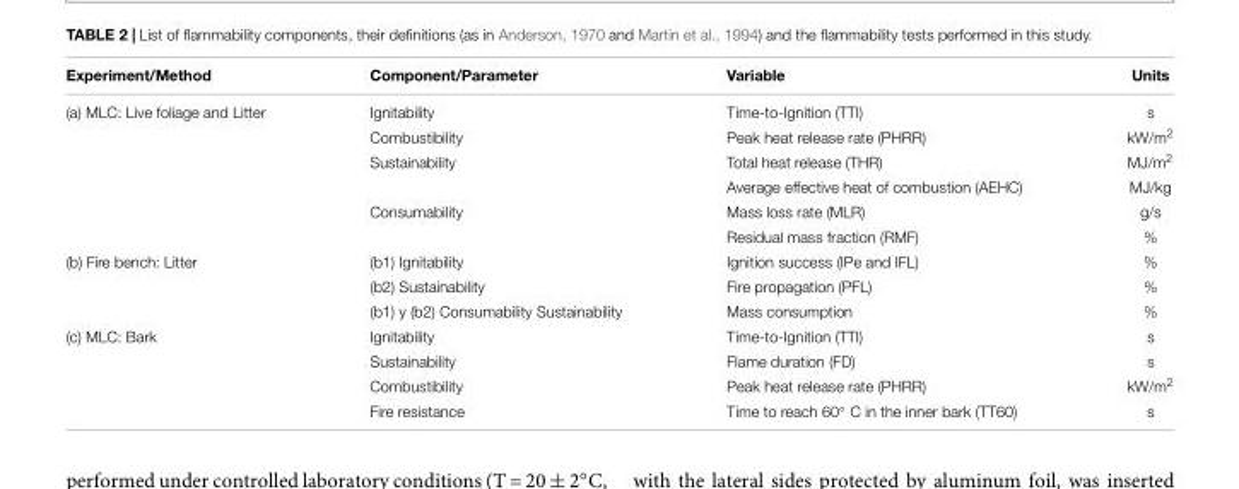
<table><thead><tr><td>Experiment/Method</td><td>Component/Parameter</td><td>Variable</td><td>Units</td></tr></thead><tbody><tr><td rowspan="6">(a) MLC: Live foliage and Litter</td><td>Ignitability</td><td>Time-to-Ignition (TTI)</td><td>s</td></tr><tr><td>Combustibility</td><td>Peak heat release rate (PHRR)</td><td>kW/m<sup>2</sup></td></tr><tr><td>Sustainability</td><td>Total heat release (THR)</td><td>MJ/m<sup>2</sup></td></tr><tr><td></td><td>Average effective heat of combustion (AEHC)</td><td>MJ/kg</td></tr><tr><td>Consumability</td><td>Mass loss rate (MLR)</td><td>g/s</td></tr><tr><td></td><td>Residual mass fraction (RMF)</td><td>%</td></tr><tr><td rowspan="3">(b) Fire bench: Litter</td><td>(b1) Ignitability</td><td>Ignition success (IPe and IFL)</td><td>%</td></tr><tr><td>(b2) Sustainability</td><td>Fire propagation (PFL)</td><td>%</td></tr><tr><td>(b1) y (b2) Consumability Sustainability</td><td>Mass consumption</td><td>%</td></tr><tr><td rowspan="4">(c) MLC: Bark</td><td>Ignitability</td><td>Time-to-Ignition (TTI)</td><td>s</td></tr><tr><td>Sustainability</td><td>Flame duration (FD)</td><td>s</td></tr><tr><td>Combustibility</td><td>Peak heat release rate (PHRR)</td><td>kW/m<sup>2</sup></td></tr><tr><td>Fire resistance</td><td>Time to reach 60◦ C in the inner bark (TT60)</td><td>s</td></tr></tbody></table>